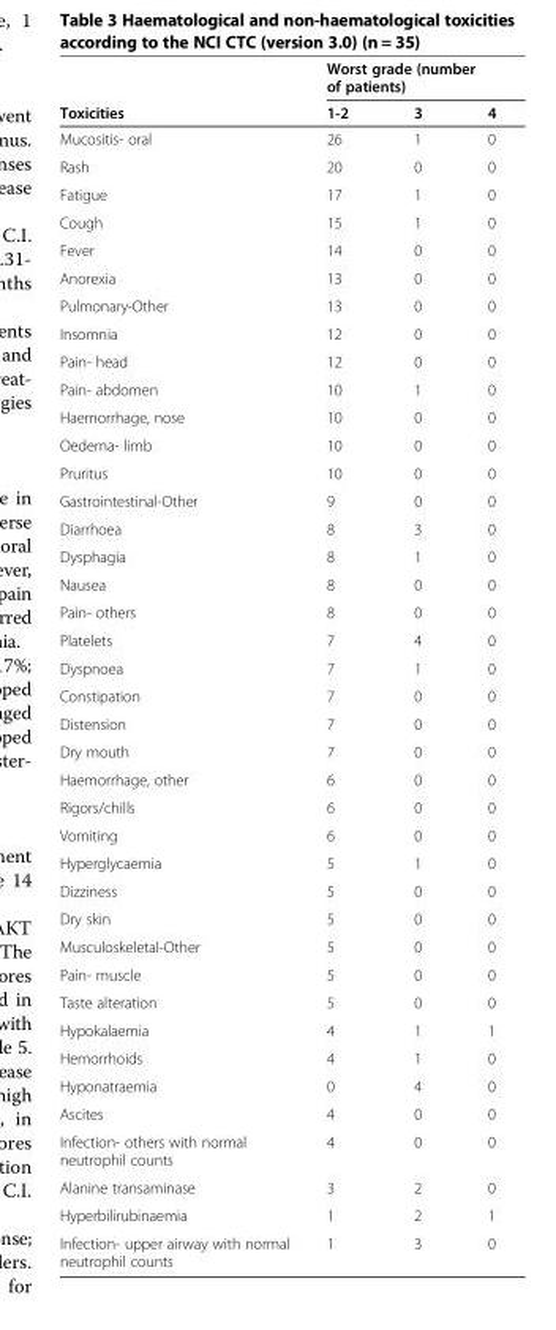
<table><thead><tr><td rowspan="2">Toxicities</td><td colspan="3">Worst grade (number of patients)</td></tr><tr><td>1-2</td><td>3</td><td>4</td></tr></thead><tbody><tr><td>Mucositis- oral</td><td>26</td><td>1</td><td>0</td></tr><tr><td>Rash</td><td>20</td><td>0</td><td>0</td></tr><tr><td>Fatigue</td><td>17</td><td>1</td><td>0</td></tr><tr><td>Cough</td><td>15</td><td>1</td><td>0</td></tr><tr><td>Fever</td><td>14</td><td>0</td><td>0</td></tr><tr><td>Anorexia</td><td>13</td><td>0</td><td>0</td></tr><tr><td>Pulmonary-Other</td><td>13</td><td>0</td><td>0</td></tr><tr><td>Insomnia</td><td>12</td><td>0</td><td>0</td></tr><tr><td>Pain- head</td><td>12</td><td>0</td><td>0</td></tr><tr><td>Pain- abdomen</td><td>10</td><td>1</td><td>0</td></tr><tr><td>Haemorrhage, nose</td><td>10</td><td>0</td><td>0</td></tr><tr><td>Oedema- limb</td><td>10</td><td>0</td><td>0</td></tr><tr><td>Pruritus</td><td>10</td><td>0</td><td>0</td></tr><tr><td>Gastrointestinal-Other</td><td>9</td><td>0</td><td>0</td></tr><tr><td>Diarrhoea</td><td>8</td><td>3</td><td>0</td></tr><tr><td>Dysphagia</td><td>8</td><td>1</td><td>0</td></tr><tr><td>Nausea</td><td>8</td><td>0</td><td>0</td></tr><tr><td>Pain- others</td><td>8</td><td>0</td><td>0</td></tr><tr><td>Platelets</td><td>7</td><td>4</td><td>0</td></tr><tr><td>Dyspnoea</td><td>7</td><td>1</td><td>0</td></tr><tr><td>Constipation</td><td>7</td><td>0</td><td>0</td></tr><tr><td>Distension</td><td>7</td><td>0</td><td>0</td></tr><tr><td>Dry mouth</td><td>7</td><td>0</td><td>0</td></tr><tr><td>Haemorrhage, other</td><td>6</td><td>0</td><td>0</td></tr><tr><td>Rigors/chills</td><td>6</td><td>0</td><td>0</td></tr><tr><td>Vomiting</td><td>6</td><td>0</td><td>0</td></tr><tr><td>Hyperglycaemia</td><td>5</td><td>1</td><td>0</td></tr><tr><td>Dizziness</td><td>5</td><td>0</td><td>0</td></tr><tr><td>Dry skin</td><td>5</td><td>0</td><td>0</td></tr><tr><td>Musculoskeletal-Other</td><td>5</td><td>0</td><td>0</td></tr><tr><td>Pain- muscle</td><td>5</td><td>0</td><td>0</td></tr><tr><td>Taste alteration</td><td>5</td><td>0</td><td>0</td></tr><tr><td>Hypokalaemia</td><td>4</td><td>1</td><td>1</td></tr><tr><td>Hemorrhoids</td><td>4</td><td>1</td><td>0</td></tr><tr><td>Hyponatraemia</td><td>0</td><td>4</td><td>0</td></tr><tr><td>Ascites</td><td>4</td><td>0</td><td>0</td></tr><tr><td>Infection- others with normal neutrophil counts</td><td>4</td><td>0</td><td>0</td></tr><tr><td>Alanine transaminase</td><td>3</td><td>2</td><td>0</td></tr><tr><td>Hyperbilirubinaemia</td><td>1</td><td>2</td><td>1</td></tr><tr><td>Infection- upper airway with normal neutrophil counts</td><td>1</td><td>3</td><td>0</td></tr></tbody></table>